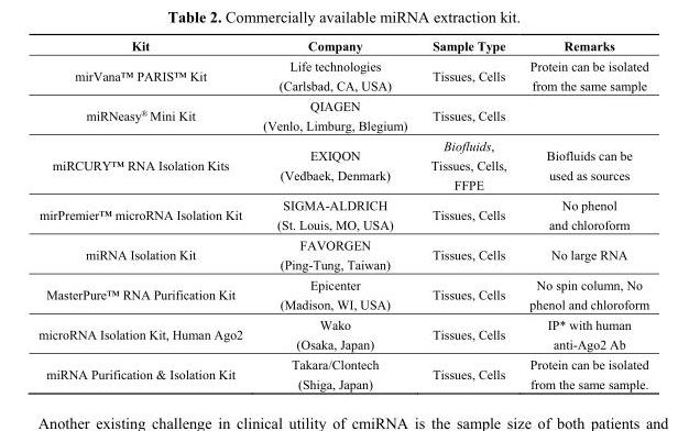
<table><thead><tr><td>Kit</td><td>Company</td><td>Sample Type</td><td>Remarks</td></tr></thead><tbody><tr><td>mirVana™ PARIS™ Kit</td><td>Life technologies (Carlsbad, CA, USA)</td><td>Tissues, Cells</td><td>Protein can be isolated from the same sample</td></tr><tr><td>miRNeasy<sup>®</sup> Mini Kit</td><td>QIAGEN (Venlo, Limburg, Blegium)</td><td>Tissues, Cells</td><td></td></tr><tr><td>miRCURY™ RNA Isolation Kits</td><td>EXIQON (Vedbaek, Denmark)</td><td>Biofluids, Tissues, Cells, FFPE</td><td>Biofluids can be used as sources</td></tr><tr><td>mirPremier™ microRNA Isolation Kit</td><td>SIGMA-ALDRICH (St. Louis, MO, USA)</td><td>Tissues, Cells</td><td>No phenol and chloroform</td></tr><tr><td>miRNA Isolation Kit</td><td>FAVORGEN (Ping-Tung, Taiwan)</td><td>Tissues, Cells</td><td>No large RNA</td></tr><tr><td>MasterPure™ RNA Purification Kit</td><td>Epicenter (Madison, WI, USA)</td><td>Tissues, Cells</td><td>No spin column, No phenol and chloroform</td></tr><tr><td>microRNA Isolation Kit, Human Ago2</td><td>Wako (Osaka, Japan)</td><td>Tissues, Cells</td><td>IP* with human anti-Ago2 Ab</td></tr><tr><td>miRNA Purification &amp; Isolation Kit</td><td>Takara/Clontech (Shiga, Japan)</td><td>Tissues, Cells</td><td>Protein can be isolated from the same sample.</td></tr></tbody></table>